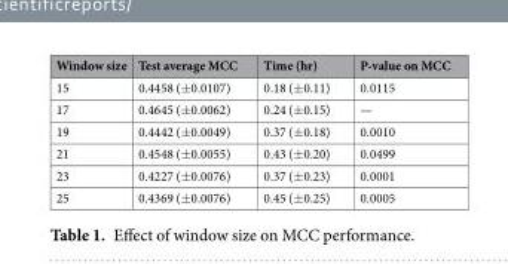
<table><thead><tr><td>Window size</td><td>Test average MCC</td><td>Time (hr)</td><td>P-value on MCC</td></tr></thead><tbody><tr><td>15</td><td>0.4458 (±0.0107)</td><td>0.18 (±0.11)</td><td>0.0115</td></tr><tr><td>17</td><td>0.4645 (±0.0062)</td><td>0.24 (±0.15)</td><td>—</td></tr><tr><td>19</td><td>0.4442 (±0.0049)</td><td>0.37 (±0.18)</td><td>0.0010</td></tr><tr><td>21</td><td>0.4548 (±0.0055)</td><td>0.43 (±0.20)</td><td>0.0499</td></tr><tr><td>23</td><td>0.4227 (±0.0076)</td><td>0.37 (±0.23)</td><td>0.0001</td></tr><tr><td>25</td><td>0.4369 (±0.0076)</td><td>0.45 (±0.25)</td><td>0.0005</td></tr></tbody></table>